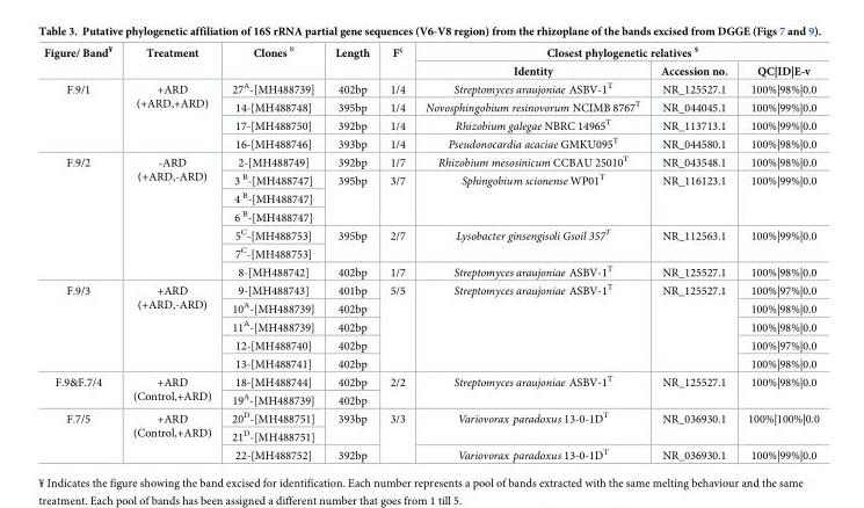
<table><thead><tr><td rowspan="2">Figure/ Band<sup>¥</sup></td><td rowspan="2">Treatment</td><td rowspan="2">Clones <sup>ȣ</sup></td><td rowspan="2">Length</td><td rowspan="2">Fc¸</td><td colspan="3">Closest phylogenetic relatives <sup>§</sup></td></tr><tr><td>Identity</td><td>Accession no.</td><td>QC|ID|E-v</td></tr></thead><tbody><tr><td rowspan="4">F.9/1</td><td rowspan="4">+ARD (+ARD,+ARD)</td><td>27<sup>A</sup>-[MH488739]</td><td>402bp</td><td>1/4</td><td>Streptomyces araujoniae ASBV-1<sup>T</sup></td><td>NR_125527.1</td><td>100%|98%|0.0</td></tr><tr><td>14-[MH488748]</td><td>395bp</td><td>1/4</td><td>Novosphingobium resinovorum NCIMB 8767<sup>T</sup></td><td>NR_044045.1</td><td>100%|99%|0.0</td></tr><tr><td>17-[MH488750]</td><td>392bp</td><td>1/4</td><td>Rhizobium galegae NBRC 14965<sup>T</sup></td><td>NR_113713.1</td><td>100%|99%|0.0</td></tr><tr><td>16-[MH488746]</td><td>393bp</td><td>1/4</td><td>Pseudonocardia acaciae GMKU095<sup>T</sup></td><td>NR_044580.1</td><td>100%|98%|0.0</td></tr><tr><td rowspan="7">F.9/2</td><td rowspan="7">-ARD (+ARD,-ARD)</td><td>2-[MH488749]</td><td>392bp</td><td>1/7</td><td>Rhizobium mesosinicum CCBAU 25010<sup>T</sup></td><td>NR_043548.1</td><td>100%|98%|0.0</td></tr><tr><td>3 <sup>B</sup>-[MH488747]</td><td rowspan="3">395bp</td><td rowspan="3">3/7</td><td rowspan="3">Sphingobium scionense WP01<sup>T</sup></td><td rowspan="3">NR_116123.1</td><td rowspan="3">100%|99%|0.0</td></tr><tr><td>4 <sup>B</sup>-[MH488747]</td></tr><tr><td>6 <sup>B</sup>-[MH488747]</td></tr><tr><td>5<sup>C</sup>-[MH488753]</td><td rowspan="2">395bp</td><td rowspan="2">2/7</td><td rowspan="2">Lysobacter ginsengisoli Gsoil 357<sup>T</sup></td><td rowspan="2">NR_112563.1</td><td rowspan="2">100%|99%|0.0</td></tr><tr><td>7<sup>C</sup>-[MH488753]</td></tr><tr><td>8-[MH488742]</td><td>402bp</td><td>1/7</td><td>Streptomyces araujoniae ASBV-1<sup>T</sup></td><td>NR_125527.1</td><td>100%|98%|0.0</td></tr><tr><td rowspan="5">F.9/3</td><td rowspan="5">+ARD (+ARD,-ARD)</td><td>9-[MH488743]</td><td>401bp</td><td rowspan="5">5/5</td><td rowspan="5">Streptomyces araujoniae ASBV-1<sup>T</sup></td><td rowspan="5">NR_125527.1</td><td>100%|97%|0.0</td></tr><tr><td>10<sup>A</sup>-[MH488739]</td><td>402bp</td><td>100%|98%|0.0</td></tr><tr><td>11<sup>A</sup>-[MH488739]</td><td>402bp</td><td>100%|98%|0.0</td></tr><tr><td>12-[MH488740]</td><td>402bp</td><td>100%|97%|0.0</td></tr><tr><td>13-[MH488741]</td><td>402bp</td><td>100%|98%|0.0</td></tr><tr><td rowspan="2">F.9&amp;F.7/4</td><td rowspan="2">+ARD (Control,+ARD)</td><td>18-[MH488744]</td><td>402bp</td><td rowspan="2">2/2</td><td rowspan="2">Streptomyces araujoniae ASBV-1<sup>T</sup></td><td rowspan="2">NR_125527.1</td><td rowspan="2">100%|98%|0.0</td></tr><tr><td>19<sup>A</sup>-[MH488739]</td><td>402bp</td></tr><tr><td rowspan="3">F.7/5</td><td rowspan="3">+ARD (Control,+ARD)</td><td>20<sup>D</sup>-[MH488751]</td><td rowspan="2">393bp</td><td rowspan="3">3/3</td><td rowspan="2">Variovorax paradoxus 13-0-1D<sup>T</sup></td><td rowspan="2">NR_036930.1</td><td rowspan="2">100%|100%|0.0</td></tr><tr><td>21<sup>D</sup>-[MH488751]</td></tr><tr><td>22-[MH488752]</td><td>392bp</td><td>Variovorax paradoxus 13-0-1D<sup>T</sup></td><td>NR_036930.1</td><td>100%|99%|0.0</td></tr></tbody></table>